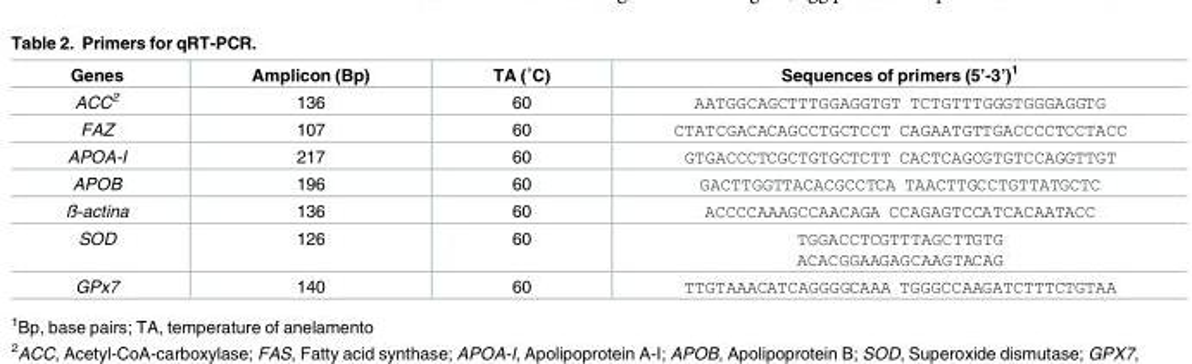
<table><thead><tr><td>Genes</td><td>Amplicon (Bp)</td><td>TA (˚C)</td><td>Sequences of primers (5’-3’)<sup>1</sup></td></tr></thead><tbody><tr><td>ACC<sup>2</sup></td><td>136</td><td>60</td><td>AATGGCAGCTTTGGAGGTGT TCTGTTTGGGTGGGAGGTG</td></tr><tr><td>FAZ</td><td>107</td><td>60</td><td>CTATCGACACAGCCTGCTCCT CAGAATGTTGACCCCTCCTACC</td></tr><tr><td>APOA-I</td><td>217</td><td>60</td><td>GTGACCCTCGCTGTGCTCTT CACTCAGCGTGTCCAGGTTGT</td></tr><tr><td>APOB</td><td>196</td><td>60</td><td>GACTTGGTTACACGCCTCA TAACTTGCCTGTTATGCTC</td></tr><tr><td>ß-actina</td><td>136</td><td>60</td><td>ACCCCAAAGCCAACAGA CCAGAGTCCATCACAATACC</td></tr><tr><td>SOD</td><td>126</td><td>60</td><td>TGGACCTCGTTTAGCTTGTG ACACGGAAGAGCAAGTACAG</td></tr><tr><td>GPx7</td><td>140</td><td>60</td><td>TTGTAAACATCAGGGGCAAA TGGGCCAAGATCTTTCTGTAA</td></tr></tbody></table>